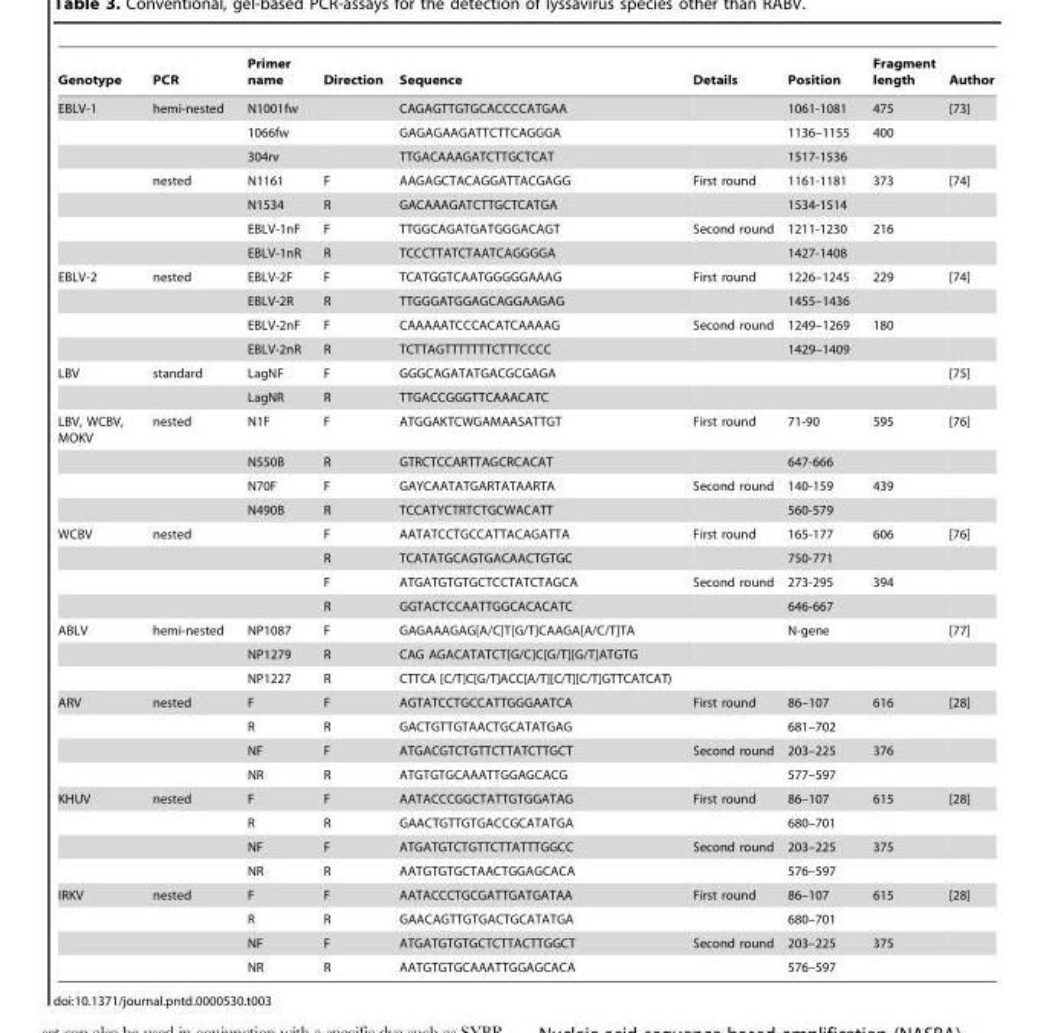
<table><thead><tr><td>Genotype</td><td>PCR</td><td>Primer name</td><td>Direction</td><td>Sequence</td><td>Details</td><td>Position</td><td>Fragment length</td><td>Author</td></tr></thead><tbody><tr><td rowspan="7">EBLV-1</td><td>hemi-nested</td><td>N1001fw</td><td></td><td>CAGAGTTGTGCACCCCATGAA</td><td></td><td>1061-1081</td><td>475</td><td>[73]</td></tr><tr><td></td><td>1066fw</td><td></td><td>GAGAGAAGATTCTTCAGGGA</td><td></td><td>1136–1155</td><td>400</td><td></td></tr><tr><td></td><td>304rv</td><td></td><td>TTGACAAAGATCTTGCTCAT</td><td></td><td>1517-1536</td><td></td><td></td></tr><tr><td>nested</td><td>N1161</td><td>F</td><td>AAGAGCTACAGGATTACGAGG</td><td>First round</td><td>1161-1181</td><td>373</td><td>[74]</td></tr><tr><td></td><td>N1534</td><td>R</td><td>GACAAAGATCTTGCTCATGA</td><td></td><td>1534-1514</td><td></td><td></td></tr><tr><td></td><td>EBLV-1nF</td><td>F</td><td>TTGGCAGATGATGGGACAGT</td><td>Second round</td><td>1211-1230</td><td>216</td><td></td></tr><tr><td></td><td>EBLV-1nR</td><td>R</td><td>TCCCTTATCTAATCAGGGGA</td><td></td><td>1427-1408</td><td></td><td></td></tr><tr><td rowspan="4">EBLV-2</td><td>nested</td><td>EBLV-2F</td><td>F</td><td>TCATGGTCAATGGGGGAAAG</td><td>First round</td><td>1226–1245</td><td>229</td><td>[74]</td></tr><tr><td></td><td>EBLV-2R</td><td>R</td><td>TTGGGATGGAGCAGGAAGAG</td><td></td><td>1455–1436</td><td></td><td></td></tr><tr><td></td><td>EBLV-2nF</td><td>F</td><td>CAAAAATCCCACATCAAAAG</td><td>Second round</td><td>1249–1269</td><td>180</td><td></td></tr><tr><td></td><td>EBLV-2nR</td><td>R</td><td>TCTTAGTTTTTTTCTTTCCCC</td><td></td><td>1429–1409</td><td></td><td></td></tr><tr><td rowspan="2">LBV</td><td>standard</td><td>LagNF</td><td>F</td><td>GGGCAGATATGACGCGAGA</td><td></td><td></td><td></td><td>[75]</td></tr><tr><td></td><td>LagNR</td><td>R</td><td>TTGACCGGGTTCAAACATC</td><td></td><td></td><td></td><td></td></tr><tr><td rowspan="4">LBV, WCBV, MOKV</td><td>nested</td><td>N1F</td><td>F</td><td>ATGGAKTCWGAMAASATTGT</td><td>First round</td><td>71-90</td><td>595</td><td>[76]</td></tr><tr><td></td><td>N550B</td><td>R</td><td>GTRCTCCARTTAGCRCACAT</td><td></td><td>647-666</td><td></td><td></td></tr><tr><td></td><td>N70F</td><td>F</td><td>GAYCAATATGARTATAARTA</td><td>Second round</td><td>140-159</td><td>439</td><td></td></tr><tr><td></td><td>N490B</td><td>R</td><td>TCCATYCTRTCTGCWACATT</td><td></td><td>560-579</td><td></td><td></td></tr><tr><td rowspan="4">WCBV</td><td>nested</td><td></td><td>F</td><td>AATATCCTGCCATTACAGATTA</td><td>First round</td><td>165-177</td><td>606</td><td>[76]</td></tr><tr><td></td><td></td><td>R</td><td>TCATATGCAGTGACAACTGTGC</td><td></td><td>750-771</td><td></td><td></td></tr><tr><td></td><td></td><td>F</td><td>ATGATGTGTGCTCCTATCTAGCA</td><td>Second round</td><td>273-295</td><td>394</td><td></td></tr><tr><td></td><td></td><td>R</td><td>GGTACTCCAATTGGCACACATC</td><td></td><td>646-667</td><td></td><td></td></tr><tr><td rowspan="3">ABLV</td><td>hemi-nested</td><td>NP1087</td><td>F</td><td>GAGAAAGAG[A/C]T[G/T]CAAGA[A/C/T]TA</td><td></td><td>N-gene</td><td></td><td>[77]</td></tr><tr><td></td><td>NP1279</td><td>R</td><td>CAG AGACATATCT[G/C]C[G/T][G/T]ATGTG</td><td></td><td></td><td></td><td></td></tr><tr><td></td><td>NP1227</td><td>R</td><td>CTTCA [C/T]C[G/T]ACC[A/T][C/T][C/T]GTTCATCAT)</td><td></td><td></td><td></td><td></td></tr><tr><td rowspan="4">ARV</td><td>nested</td><td>F</td><td>F</td><td>AGTATCCTGCCATTGGGAATCA</td><td>First round</td><td>86–107</td><td>616</td><td>[28]</td></tr><tr><td></td><td>R</td><td>R</td><td>GACTGTTGTAACTGCATATGAG</td><td></td><td>681–702</td><td></td><td></td></tr><tr><td></td><td>NF</td><td>F</td><td>ATGACGTCTGTTCTTATCTTGCT</td><td>Second round</td><td>203–225</td><td>376</td><td></td></tr><tr><td></td><td>NR</td><td>R</td><td>ATGTGTGCAAATTGGAGCACG</td><td></td><td>577–597</td><td></td><td></td></tr><tr><td rowspan="4">KHUV</td><td>nested</td><td>F</td><td>F</td><td>AATACCCGGCTATTGTGGATAG</td><td>First round</td><td>86–107</td><td>615</td><td>[28]</td></tr><tr><td></td><td>R</td><td>R</td><td>GAACTGTTGTGACCGCATATGA</td><td></td><td>680–701</td><td></td><td></td></tr><tr><td></td><td>NF</td><td>F</td><td>ATGATGTCTGTTCTTATTTGGCC</td><td>Second round</td><td>203–225</td><td>375</td><td></td></tr><tr><td></td><td>NR</td><td>R</td><td>AATGTGTGCTAACTGGAGCACA</td><td></td><td>576–597</td><td></td><td></td></tr><tr><td rowspan="4">IRKV</td><td>nested</td><td>F</td><td>F</td><td>AATACCCTGCGATTGATGATAA</td><td>First round</td><td>86–107</td><td>615</td><td>[28]</td></tr><tr><td></td><td>R</td><td>R</td><td>GAACAGTTGTGACTGCATATGA</td><td></td><td>680–701</td><td></td><td></td></tr><tr><td></td><td>NF</td><td>F</td><td>ATGATGTGTGCTCTTACTTGGCT</td><td>Second round</td><td>203–225</td><td>375</td><td></td></tr><tr><td></td><td>NR</td><td>R</td><td>AATGTGTGCAAATTGGAGCACA</td><td></td><td>576–597</td><td></td><td></td></tr></tbody></table>